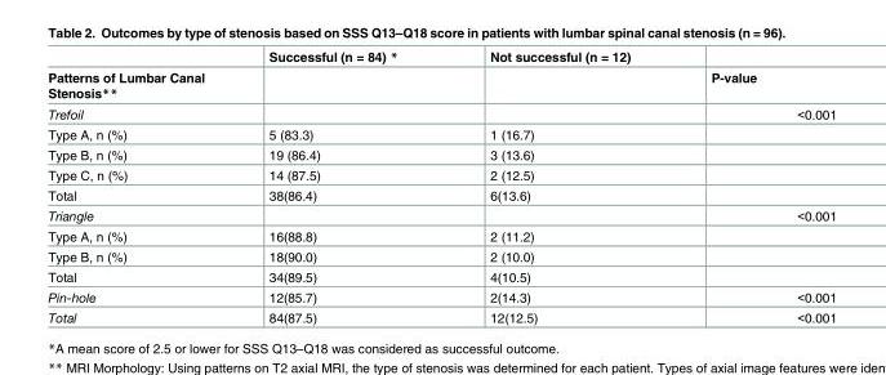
<table><thead><tr><td rowspan="2">Patterns of Lumbar Canal Stenosis**</td><td rowspan="2">Successful (n = 84) *</td><td rowspan="2">Not successful (n = 12)</td><td rowspan="2">P-value</td></tr><tr></tr></thead><tbody><tr><td>Trefoil</td><td></td><td></td><td>&lt;0.001</td></tr><tr><td>Type A, n (%)</td><td>5 (83.3)</td><td>1 (16.7)</td><td></td></tr><tr><td>Type B, n (%)</td><td>19 (86.4)</td><td>3 (13.6)</td><td></td></tr><tr><td>Type C, n (%)</td><td>14 (87.5)</td><td>2 (12.5)</td><td></td></tr><tr><td>Total</td><td>38(86.4)</td><td>6(13.6)</td><td></td></tr><tr><td>Triangle</td><td></td><td></td><td>&lt;0.001</td></tr><tr><td>Type A, n (%)</td><td>16(88.8)</td><td>2 (11.2)</td><td></td></tr><tr><td>Type B, n (%)</td><td>18(90.0)</td><td>2 (10.0)</td><td></td></tr><tr><td>Total</td><td>34(89.5)</td><td>4(10.5)</td><td></td></tr><tr><td>Pin-hole</td><td>12(85.7)</td><td>2(14.3)</td><td>&lt;0.001</td></tr><tr><td>Total</td><td>84(87.5)</td><td>12(12.5)</td><td>&lt;0.001</td></tr></tbody></table>